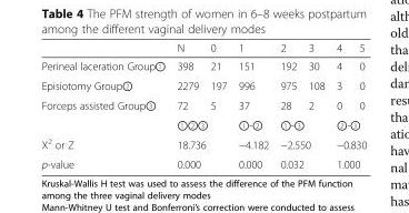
<table><thead><tr><td></td><td>N</td><td>0</td><td>1</td><td>2</td><td>3</td><td>4</td><td>5</td></tr></thead><tbody><tr><td>Perineal laceration Group①</td><td>398</td><td>21</td><td>151</td><td>192</td><td>30</td><td>4</td><td>0</td></tr><tr><td>Episiotomy Group②</td><td>2279</td><td>197</td><td>996</td><td>975</td><td>108</td><td>3</td><td>0</td></tr><tr><td rowspan="2">Forceps assisted Group③</td><td>72</td><td>5</td><td>37</td><td>28</td><td>2</td><td>0</td><td>0</td></tr><tr><td colspan="2">①②③</td><td>①-②</td><td colspan="2">①-③</td><td colspan="2">②-③</td></tr><tr><td>X<sup>2</sup> or Z</td><td colspan="2">18.736</td><td>−4.182</td><td colspan="2">−2.550</td><td colspan="2">−0.830</td></tr><tr><td>p-value</td><td colspan="2">0.000</td><td>0.000</td><td colspan="2">0.032</td><td colspan="2">1.000</td></tr></tbody></table>